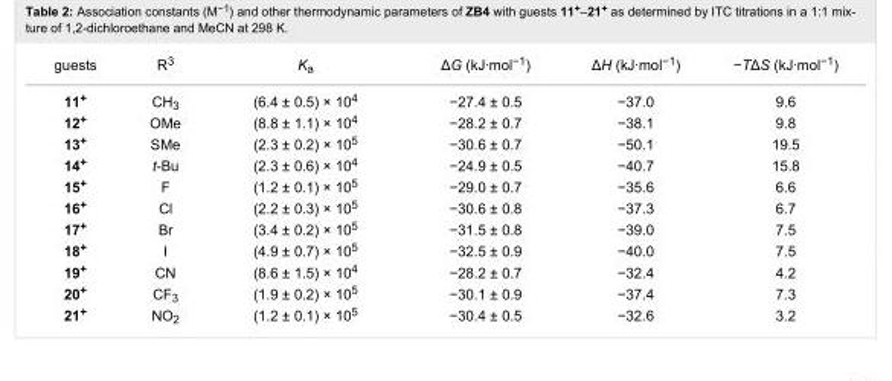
<table><tbody><tr><td>guests</td><td>R<sup>3</sup></td><td>K<sub>a</sub></td><td>ΔG (kJ∙mol<sup>−1</sup>)</td><td>ΔH (kJ∙mol<sup>−1</sup>)</td><td>−TΔS (kJ∙mol<sup>−1</sup>)</td></tr><tr><td>11<sup>+</sup></td><td>CH<sub>3</sub></td><td>(6.4 ± 0.5) × 10<sup>4</sup></td><td>−27.4 ± 0.5</td><td>−37.0</td><td>9.6</td></tr><tr><td>12<sup>+</sup></td><td>OMe</td><td>(8.8 ± 1.1) × 10<sup>4</sup></td><td>−28.2 ± 0.7</td><td>−38.1</td><td>9.8</td></tr><tr><td>13<sup>+</sup></td><td>SMe</td><td>(2.3 ± 0.2) × 10<sup>5</sup></td><td>−30.6 ± 0.7</td><td>−50.1</td><td>19.5</td></tr><tr><td>14<sup>+</sup></td><td>t-Bu</td><td>(2.3 ± 0.6) × 10<sup>4</sup></td><td>−24.9 ± 0.5</td><td>−40.7</td><td>15.8</td></tr><tr><td>15<sup>+</sup></td><td>F</td><td>(1.2 ± 0.1) × 10<sup>5</sup></td><td>−29.0 ± 0.7</td><td>−35.6</td><td>6.6</td></tr><tr><td>16<sup>+</sup></td><td>Cl</td><td>(2.2 ± 0.3) × 10<sup>5</sup></td><td>−30.6 ± 0.8</td><td>−37.3</td><td>6.7</td></tr><tr><td>17<sup>+</sup></td><td>Br</td><td>(3.4 ± 0.2) × 10<sup>5</sup></td><td>−31.5 ± 0.8</td><td>−39.0</td><td>7.5</td></tr><tr><td>18<sup>+</sup></td><td>I</td><td>(4.9 ± 0.7) × 10<sup>5</sup></td><td>−32.5 ± 0.9</td><td>−40.0</td><td>7.5</td></tr><tr><td>19<sup>+</sup></td><td>CN</td><td>(8.6 ± 1.5) × 10<sup>4</sup></td><td>−28.2 ± 0.7</td><td>−32.4</td><td>4.2</td></tr><tr><td>20<sup>+</sup></td><td>CF<sub>3</sub></td><td>(1.9 ± 0.2) × 10<sup>5</sup></td><td>−30.1 ± 0.9</td><td>−37.4</td><td>7.3</td></tr><tr><td>21<sup>+</sup></td><td>NO<sub>2</sub></td><td>(1.2 ± 0.1) × 10<sup>5</sup></td><td>−30.4 ± 0.5</td><td>−32.6</td><td>3.2</td></tr></tbody></table>